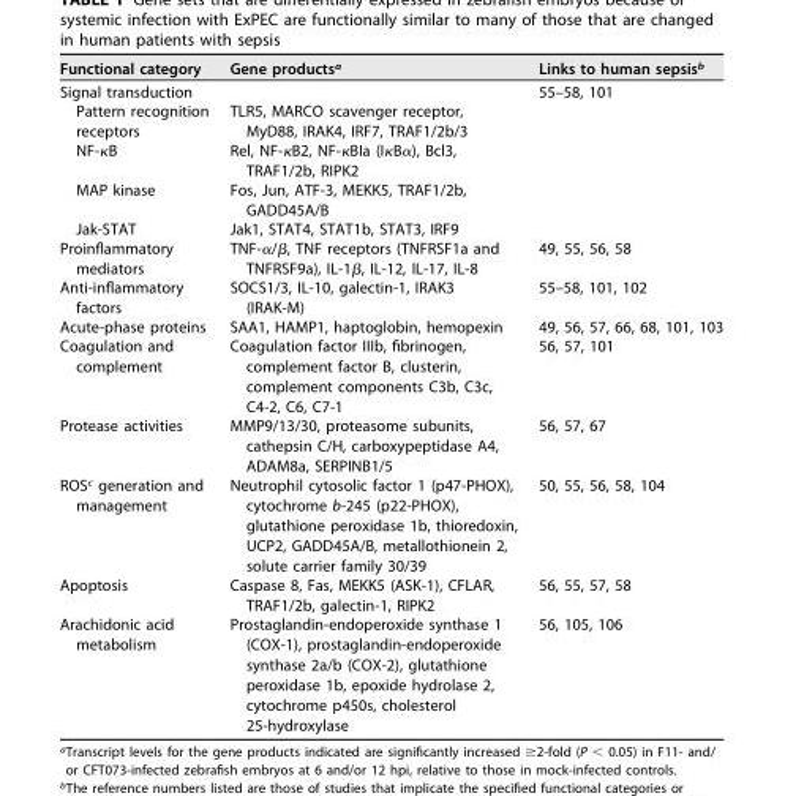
<table><thead><tr><td>Functional category</td><td>Gene products<sup>a</sup></td><td>Links to human sepsis<sup>b</sup></td></tr></thead><tbody><tr><td>Signal transduction</td><td></td><td>55–58, 101</td></tr><tr><td>Pattern recognition receptors</td><td>TLR5, MARCO scavenger receptor, MyD88, IRAK4, IRF7, TRAF1/2b/3</td><td></td></tr><tr><td>NF-κB</td><td>Rel, NF-κB2, NF-κBIa (IκBα), Bcl3, TRAF1/2b, RIPK2</td><td></td></tr><tr><td>MAP kinase</td><td>Fos, Jun, ATF-3, MEKK5, TRAF1/2b, GADD45A/B</td><td></td></tr><tr><td>Jak-STAT</td><td>Jak1, STAT4, STAT1b, STAT3, IRF9</td><td></td></tr><tr><td>Proinflammatory mediators</td><td>TNF-α/β, TNF receptors (TNFRSF1a and TNFRSF9a), IL-1β, IL-12, IL-17, IL-8</td><td>49, 55, 56, 58</td></tr><tr><td>Anti-inflammatory factors</td><td>SOCS1/3, IL-10, galectin-1, IRAK3 (IRAK-M)</td><td>55–58, 101, 102</td></tr><tr><td>Acute-phase proteins</td><td>SAA1, HAMP1, haptoglobin, hemopexin</td><td>49, 56, 57, 66, 68, 101, 103</td></tr><tr><td>Coagulation and complement</td><td>Coagulation factor IIIb, fibrinogen, complement factor B, clusterin, complement components C3b, C3c, C4-2, C6, C7-1</td><td>56, 57, 101</td></tr><tr><td>Protease activities</td><td>MMP9/13/30, proteasome subunits, cathepsin C/H, carboxypeptidase A4, ADAM8a, SERPINB1/5</td><td>56, 57, 67</td></tr><tr><td>ROS<sup>c</sup> generation and management</td><td>Neutrophil cytosolic factor 1 (p47-PHOX), cytochrome b-245 (p22-PHOX), glutathione peroxidase 1b, thioredoxin, UCP2, GADD45A/B, metallothionein 2, solute carrier family 30/39</td><td>50, 55, 56, 58, 104</td></tr><tr><td>Apoptosis</td><td>Caspase 8, Fas, MEKK5 (ASK-1), CFLAR, TRAF1/2b, galectin-1, RIPK2</td><td>56, 55, 57, 58</td></tr><tr><td>Arachidonic acid metabolism</td><td>Prostaglandin-endoperoxide synthase 1 (COX-1), prostaglandin-endoperoxide synthase 2a/b (COX-2), glutathione peroxidase 1b, epoxide hydrolase 2, cytochrome p450s, cholesterol 25-hydroxylase</td><td>56, 105, 106</td></tr></tbody></table>